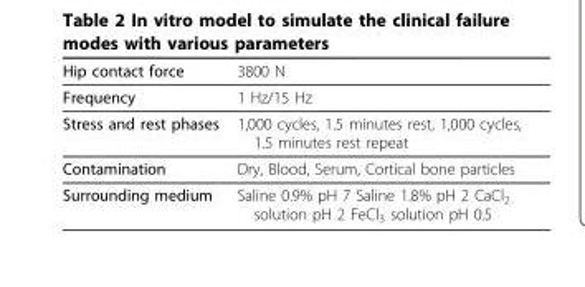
<table><thead><tr><td>Hip contact force</td><td>3800 N</td></tr></thead><tbody><tr><td>Frequency</td><td>1 Hz/15 Hz</td></tr><tr><td>Stress and rest phases</td><td>1,000 cycles, 1.5 minutes rest, 1,000 cycles, 1.5 minutes rest repeat</td></tr><tr><td>Contamination</td><td>Dry, Blood, Serum, Cortical bone particles</td></tr><tr><td>Surrounding medium</td><td>Saline 0.9% pH 7 Saline 1.8% pH 2 CaCl<sub>2</sub> solution pH 2 FeCl<sub>3</sub> solution pH 0.5</td></tr></tbody></table>